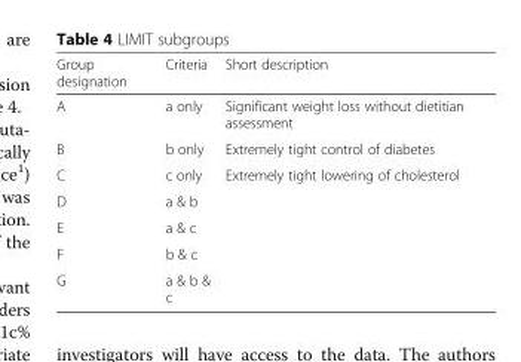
<table><thead><tr><td>Group designation</td><td>Criteria</td><td>Short description</td></tr></thead><tbody><tr><td>A</td><td>a only</td><td>Significant weight loss without dietitian assessment</td></tr><tr><td>B</td><td>b only</td><td>Extremely tight control of diabetes</td></tr><tr><td>C</td><td>c only</td><td>Extremely tight lowering of cholesterol</td></tr><tr><td>D</td><td>a &amp; b</td><td></td></tr><tr><td>E</td><td>a &amp; c</td><td></td></tr><tr><td>F</td><td>b &amp; c</td><td></td></tr><tr><td>G</td><td>a &amp; b &amp; c</td><td></td></tr></tbody></table>